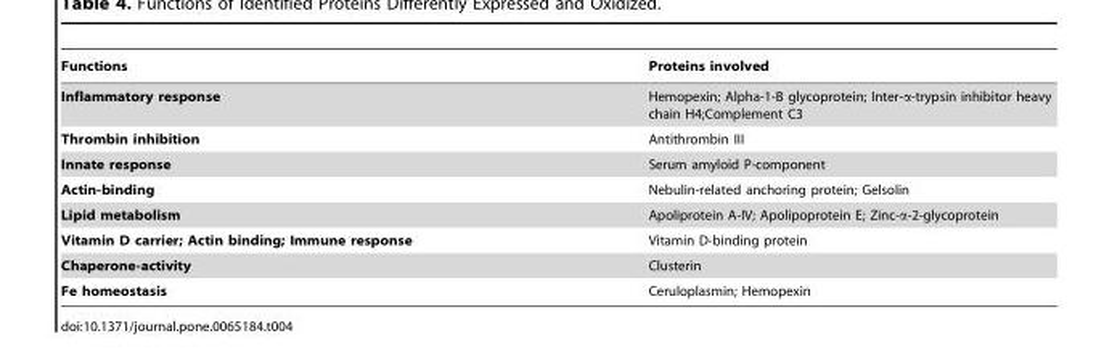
<table><thead><tr><td>Functions</td><td>Proteins involved</td></tr></thead><tbody><tr><td>Inflammatory response</td><td>Hemopexin; Alpha-1-B glycoprotein; Inter-α-trypsin inhibitor heavy chain H4;Complement C3</td></tr><tr><td>Thrombin inhibition</td><td>Antithrombin III</td></tr><tr><td>Innate response</td><td>Serum amyloid P-component</td></tr><tr><td>Actin-binding</td><td>Nebulin-related anchoring protein; Gelsolin</td></tr><tr><td>Lipid metabolism</td><td>Apoliprotein A-IV; Apolipoprotein E; Zinc-α-2-glycoprotein</td></tr><tr><td>Vitamin D carrier; Actin binding; Immune response</td><td>Vitamin D-binding protein</td></tr><tr><td>Chaperone-activity</td><td>Clusterin</td></tr><tr><td>Fe homeostasis</td><td>Ceruloplasmin; Hemopexin</td></tr></tbody></table>